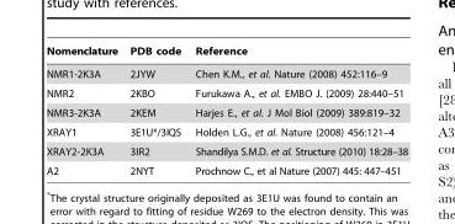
<table><thead><tr><td>Nomenclature</td><td>PDB code</td><td>Reference</td></tr></thead><tbody><tr><td>NMR1-2K3A</td><td>2JYW</td><td>Chen K.M., et al. Nature (2008) 452:116–9</td></tr><tr><td>NMR2</td><td>2KBO</td><td>Furukawa A., et al. EMBO J. (2009) 28:440–51</td></tr><tr><td>NMR3-2K3A</td><td>2KEM</td><td>Harjes E., et al. J Mol Biol (2009) 389:819–32</td></tr><tr><td>XRAY1</td><td>3E1U*/3IQS</td><td>Holden L.G., et al. Nature (2008) 456:121–4</td></tr><tr><td>XRAY2-2K3A</td><td>3IR2</td><td>Shandilya S.M.D. et al. Structure (2010) 18:28–38</td></tr><tr><td>A2</td><td>2NYT</td><td>Prochnow C., et al Nature (2007) 445: 447–451</td></tr></tbody></table>